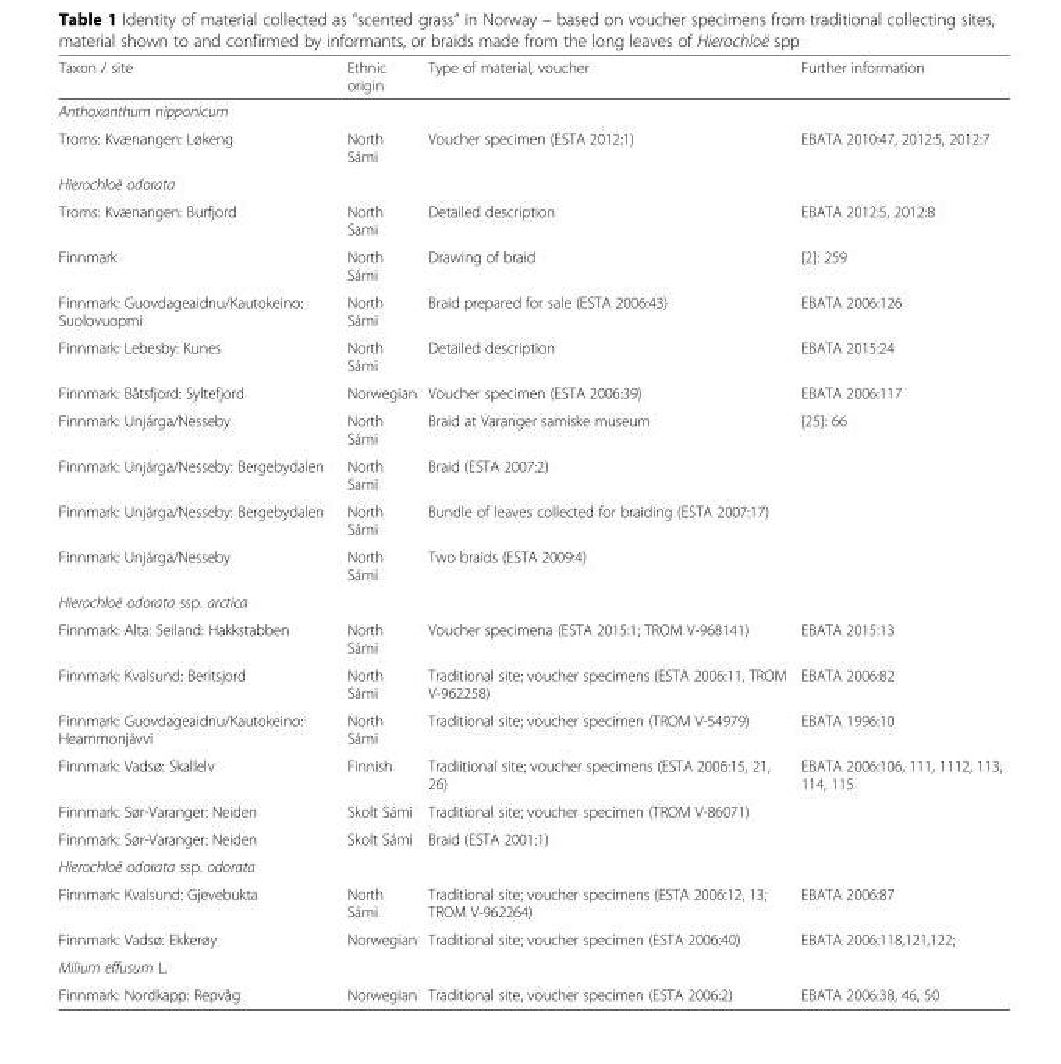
<table><thead><tr><td>Taxon / site</td><td>Ethnic origin</td><td>Type of material, voucher</td><td>Further information</td></tr></thead><tbody><tr><td colspan="4">Anthoxanthum nipponicum</td></tr><tr><td>Troms: Kvænangen: Løkeng</td><td>North Sámi</td><td>Voucher specimen (ESTA 2012:1)</td><td>EBATA 2010:47, 2012:5, 2012:7</td></tr><tr><td colspan="4">Hierochloë odorata</td></tr><tr><td>Troms: Kvænangen: Burfjord</td><td>North Sami</td><td>Detailed description</td><td>EBATA 2012:5, 2012:8</td></tr><tr><td>Finnmark</td><td>North Sámi</td><td>Drawing of braid</td><td>[2]: 259</td></tr><tr><td>Finnmark: Guovdageaidnu/Kautokeino: Suolovuopmi</td><td>North Sámi</td><td>Braid prepared for sale (ESTA 2006:43)</td><td>EBATA 2006:126</td></tr><tr><td>Finnmark: Lebesby: Kunes</td><td>North Sámi</td><td>Detailed description</td><td>EBATA 2015:24</td></tr><tr><td>Finnmark: Båtsfjord: Syltefjord</td><td>Norwegian</td><td>Voucher specimen (ESTA 2006:39)</td><td>EBATA 2006:117</td></tr><tr><td>Finnmark: Unjárga/Nesseby</td><td>North Sámi</td><td>Braid at Varanger samiske museum</td><td>[25]: 66</td></tr><tr><td>Finnmark: Unjárga/Nesseby: Bergebydalen</td><td>North Sami</td><td>Braid (ESTA 2007:2)</td><td></td></tr><tr><td>Finnmark: Unjárga/Nesseby: Bergebydalen</td><td>North Sámi</td><td>Bundle of leaves collected for braiding (ESTA 2007:17)</td><td></td></tr><tr><td>Finnmark: Unjárga/Nesseby</td><td>North Sámi</td><td>Two braids (ESTA 2009:4)</td><td></td></tr><tr><td colspan="4">Hierochloë odorata ssp. arctica</td></tr><tr><td>Finnmark: Alta: Seiland: Hakkstabben</td><td>North Sámi</td><td>Voucher specimena (ESTA 2015:1; TROM V-968141)</td><td>EBATA 2015:13</td></tr><tr><td>Finnmark: Kvalsund: Beritsjord</td><td>North Sámi</td><td>Traditional site; voucher specimens (ESTA 2006:11, TROM V-962258)</td><td>EBATA 2006:82</td></tr><tr><td>Finnmark: Guovdageaidnu/Kautokeino: Heammonjávvi</td><td>North Sámi</td><td>Traditional site; voucher specimen (TROM V-54979)</td><td>EBATA 1996:10</td></tr><tr><td>Finnmark: Vadsø: Skallelv</td><td>Finnish</td><td>Tradiitional site; voucher specimens (ESTA 2006:15, 21, 26)</td><td>EBATA 2006:106, 111, 1112, 113, 114, 115</td></tr><tr><td>Finnmark: Sør-Varanger: Neiden</td><td>Skolt Sámi</td><td>Traditional site; voucher specimen (TROM V-86071)</td><td></td></tr><tr><td>Finnmark: Sør-Varanger: Neiden</td><td>Skolt Sámi</td><td>Braid (ESTA 2001:1)</td><td></td></tr><tr><td colspan="4">Hierochloë odorata ssp. odorata</td></tr><tr><td>Finnmark: Kvalsund: Gjevebukta</td><td>North Sámi</td><td>Traditional site; voucher specimens (ESTA 2006:12, 13; TROM V-962264)</td><td>EBATA 2006:87</td></tr><tr><td>Finnmark: Vadsø: Ekkerøy</td><td>Norwegian</td><td>Traditional site; voucher specimen (ESTA 2006:40)</td><td>EBATA 2006:118,121,122;</td></tr><tr><td colspan="4">Milium effusum L.</td></tr><tr><td>Finnmark: Nordkapp: Repvåg</td><td>Norwegian</td><td>Traditional site, voucher specimen (ESTA 2006:2)</td><td>EBATA 2006:38, 46, 50</td></tr></tbody></table>